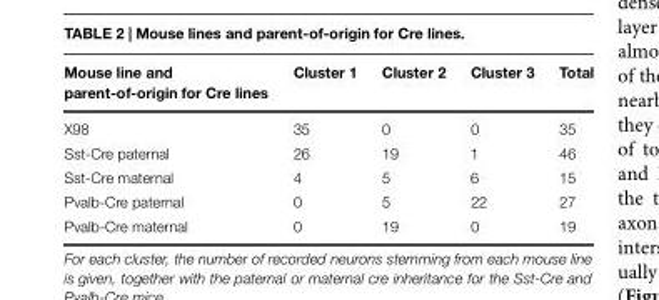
<table><thead><tr><td>Mouse line and parent-of-origin for Cre lines</td><td>Cluster 1</td><td>Cluster 2</td><td>Cluster 3</td><td>Total</td></tr></thead><tbody><tr><td>X98</td><td>35</td><td>0</td><td>0</td><td>35</td></tr><tr><td>Sst-Cre paternal</td><td>26</td><td>19</td><td>1</td><td>46</td></tr><tr><td>Sst-Cre maternal</td><td>4</td><td>5</td><td>6</td><td>15</td></tr><tr><td>Pvalb-Cre paternal</td><td>0</td><td>5</td><td>22</td><td>27</td></tr><tr><td>Pvalb-Cre maternal</td><td>0</td><td>19</td><td>0</td><td>19</td></tr></tbody></table>